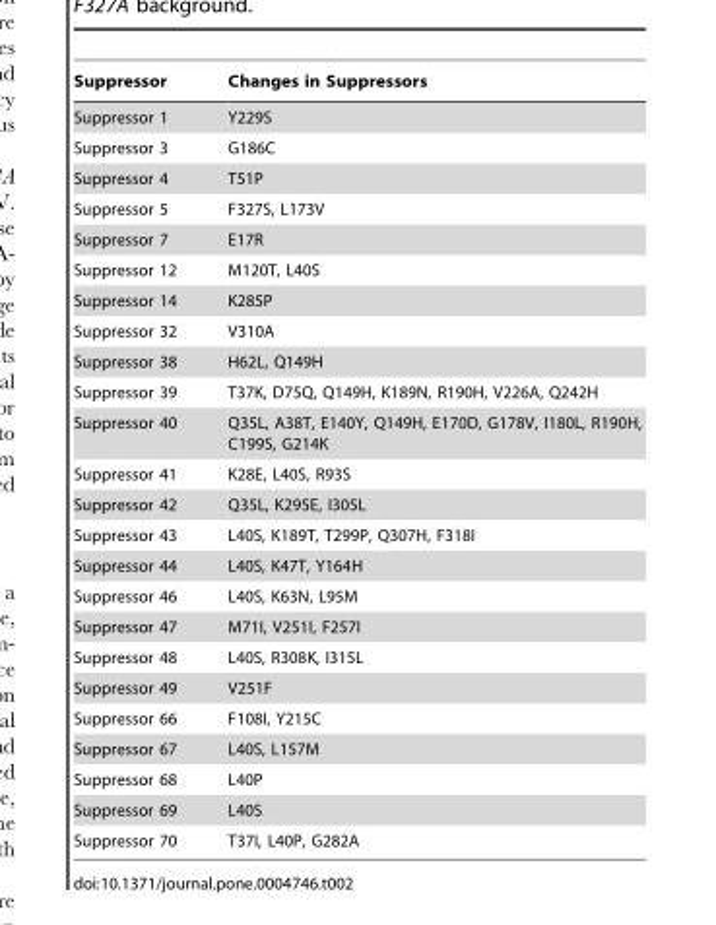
<table><thead><tr><td>Suppressor</td><td>Changes in Suppressors</td></tr></thead><tbody><tr><td>Suppressor 1</td><td>Y229S</td></tr><tr><td>Suppressor 3</td><td>G186C</td></tr><tr><td>Suppressor 4</td><td>T51P</td></tr><tr><td>Suppressor 5</td><td>F327S, L173V</td></tr><tr><td>Suppressor 7</td><td>E17R</td></tr><tr><td>Suppressor 12</td><td>M120T, L40S</td></tr><tr><td>Suppressor 14</td><td>K285P</td></tr><tr><td>Suppressor 32</td><td>V310A</td></tr><tr><td>Suppressor 38</td><td>H62L, Q149H</td></tr><tr><td>Suppressor 39</td><td>T37K, D75Q, Q149H, K189N, R190H, V226A, Q242H</td></tr><tr><td>Suppressor 40</td><td>Q35L, A38T, E140Y, Q149H, E170D, G178V, I180L, R190H, C199S, G214K</td></tr><tr><td>Suppressor 41</td><td>K28E, L40S, R93S</td></tr><tr><td>Suppressor 42</td><td>Q35L, K295E, I305L</td></tr><tr><td>Suppressor 43</td><td>L40S, K189T, T299P, Q307H, F318I</td></tr><tr><td>Suppressor 44</td><td>L40S, K47T, Y164H</td></tr><tr><td>Suppressor 46</td><td>L40S, K63N, L95M</td></tr><tr><td>Suppressor 47</td><td>M71I, V251I, F257I</td></tr><tr><td>Suppressor 48</td><td>L40S, R308K, I315L</td></tr><tr><td>Suppressor 49</td><td>V251F</td></tr><tr><td>Suppressor 66</td><td>F108I, Y215C</td></tr><tr><td>Suppressor 67</td><td>L40S, L157M</td></tr><tr><td>Suppressor 68</td><td>L40P</td></tr><tr><td>Suppressor 69</td><td>L40S</td></tr><tr><td>Suppressor 70</td><td>T37I, L40P, G282A</td></tr></tbody></table>